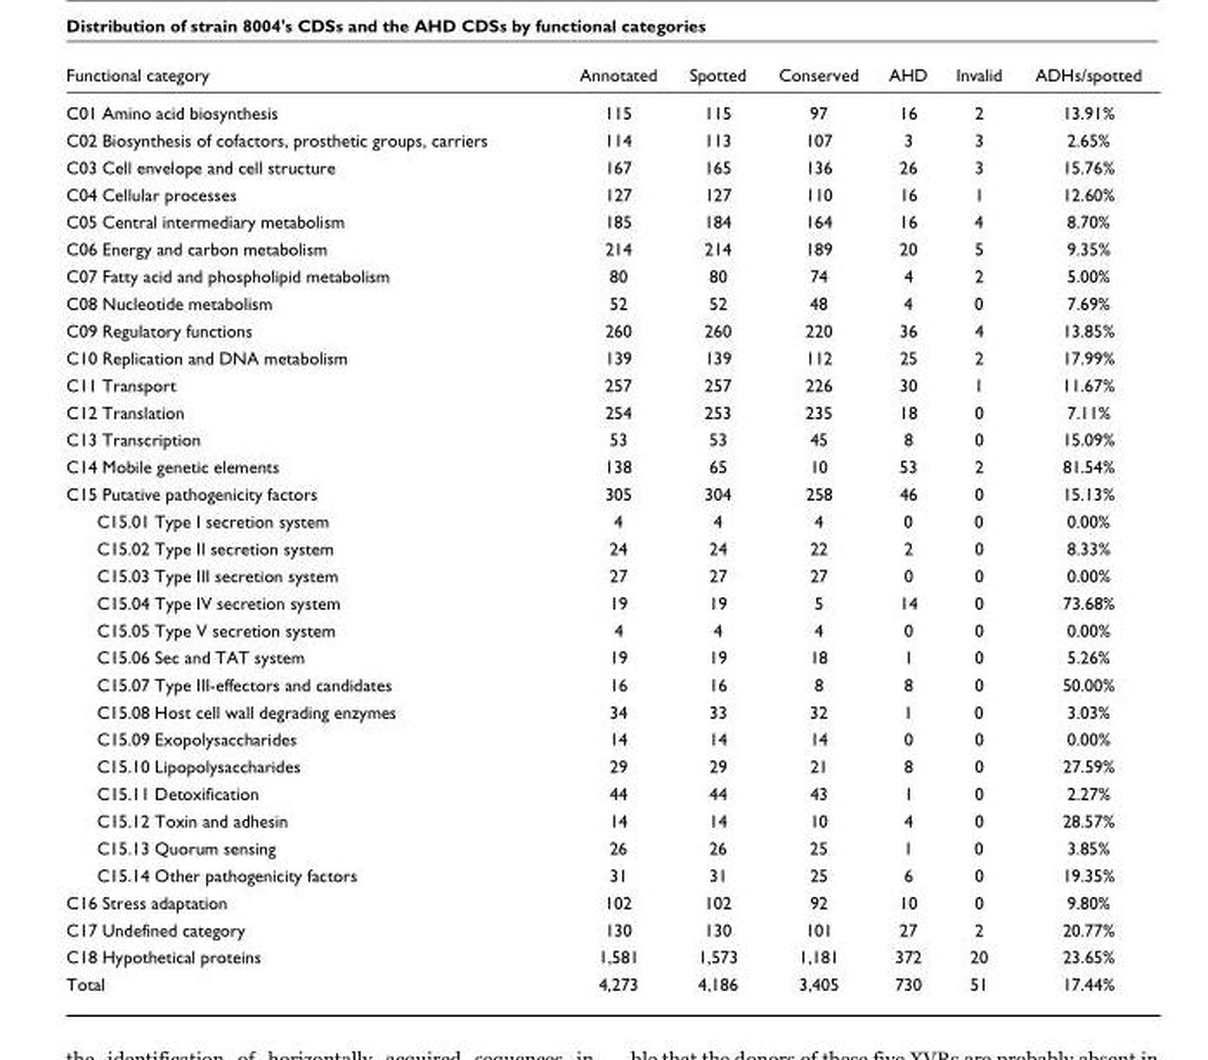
<table><thead><tr><td>Functional category</td><td>Annotated</td><td>Spotted</td><td>Conserved</td><td>AHD</td><td>Invalid</td><td>ADHs/spotted</td></tr></thead><tbody><tr><td>C01 Amino acid biosynthesis</td><td>115</td><td>115</td><td>97</td><td>16</td><td>2</td><td>13.91%</td></tr><tr><td>C02 Biosynthesis of cofactors, prosthetic groups, carriers</td><td>114</td><td>113</td><td>107</td><td>3</td><td>3</td><td>2.65%</td></tr><tr><td>C03 Cell envelope and cell structure</td><td>167</td><td>165</td><td>136</td><td>26</td><td>3</td><td>15.76%</td></tr><tr><td>C04 Cellular processes</td><td>127</td><td>127</td><td>110</td><td>16</td><td>1</td><td>12.60%</td></tr><tr><td>C05 Central intermediary metabolism</td><td>185</td><td>184</td><td>164</td><td>16</td><td>4</td><td>8.70%</td></tr><tr><td>C06 Energy and carbon metabolism</td><td>214</td><td>214</td><td>189</td><td>20</td><td>5</td><td>9.35%</td></tr><tr><td>C07 Fatty acid and phospholipid metabolism</td><td>80</td><td>80</td><td>74</td><td>4</td><td>2</td><td>5.00%</td></tr><tr><td>C08 Nucleotide metabolism</td><td>52</td><td>52</td><td>48</td><td>4</td><td>0</td><td>7.69%</td></tr><tr><td>C09 Regulatory functions</td><td>260</td><td>260</td><td>220</td><td>36</td><td>4</td><td>13.85%</td></tr><tr><td>C10 Replication and DNA metabolism</td><td>139</td><td>139</td><td>112</td><td>25</td><td>2</td><td>17.99%</td></tr><tr><td>C11 Transport</td><td>257</td><td>257</td><td>226</td><td>30</td><td>1</td><td>11.67%</td></tr><tr><td>C12 Translation</td><td>254</td><td>253</td><td>235</td><td>18</td><td>0</td><td>7.11%</td></tr><tr><td>C13 Transcription</td><td>53</td><td>53</td><td>45</td><td>8</td><td>0</td><td>15.09%</td></tr><tr><td>C14 Mobile genetic elements</td><td>138</td><td>65</td><td>10</td><td>53</td><td>2</td><td>81.54%</td></tr><tr><td>C15 Putative pathogenicity factors</td><td>305</td><td>304</td><td>258</td><td>46</td><td>0</td><td>15.13%</td></tr><tr><td>C15.01 Type I secretion system</td><td>4</td><td>4</td><td>4</td><td>0</td><td>0</td><td>0.00%</td></tr><tr><td>C15.02 Type II secretion system</td><td>24</td><td>24</td><td>22</td><td>2</td><td>0</td><td>8.33%</td></tr><tr><td>C15.03 Type III secretion system</td><td>27</td><td>27</td><td>27</td><td>0</td><td>0</td><td>0.00%</td></tr><tr><td>C15.04 Type IV secretion system</td><td>19</td><td>19</td><td>5</td><td>14</td><td>0</td><td>73.68%</td></tr><tr><td>C15.05 Type V secretion system</td><td>4</td><td>4</td><td>4</td><td>0</td><td>0</td><td>0.00%</td></tr><tr><td>C15.06 Sec and TAT system</td><td>19</td><td>19</td><td>18</td><td>1</td><td>0</td><td>5.26%</td></tr><tr><td>C15.07 Type III-effectors and candidates</td><td>16</td><td>16</td><td>8</td><td>8</td><td>0</td><td>50.00%</td></tr><tr><td>C15.08 Host cell wall degrading enzymes</td><td>34</td><td>33</td><td>32</td><td>1</td><td>0</td><td>3.03%</td></tr><tr><td>C15.09 Exopolysaccharides</td><td>14</td><td>14</td><td>14</td><td>0</td><td>0</td><td>0.00%</td></tr><tr><td>C15.10 Lipopolysaccharides</td><td>29</td><td>29</td><td>21</td><td>8</td><td>0</td><td>27.59%</td></tr><tr><td>C15.11 Detoxification</td><td>44</td><td>44</td><td>43</td><td>1</td><td>0</td><td>2.27%</td></tr><tr><td>C15.12 Toxin and adhesin</td><td>14</td><td>14</td><td>10</td><td>4</td><td>0</td><td>28.57%</td></tr><tr><td>C15.13 Quorum sensing</td><td>26</td><td>26</td><td>25</td><td>1</td><td>0</td><td>3.85%</td></tr><tr><td>C15.14 Other pathogenicity factors</td><td>31</td><td>31</td><td>25</td><td>6</td><td>0</td><td>19.35%</td></tr><tr><td>C16 Stress adaptation</td><td>102</td><td>102</td><td>92</td><td>10</td><td>0</td><td>9.80%</td></tr><tr><td>C17 Undefined category</td><td>130</td><td>130</td><td>101</td><td>27</td><td>2</td><td>20.77%</td></tr><tr><td>C18 Hypothetical proteins</td><td>1,581</td><td>1,573</td><td>1,181</td><td>372</td><td>20</td><td>23.65%</td></tr><tr><td>Total</td><td>4,273</td><td>4,186</td><td>3,405</td><td>730</td><td>51</td><td>17.44%</td></tr></tbody></table>